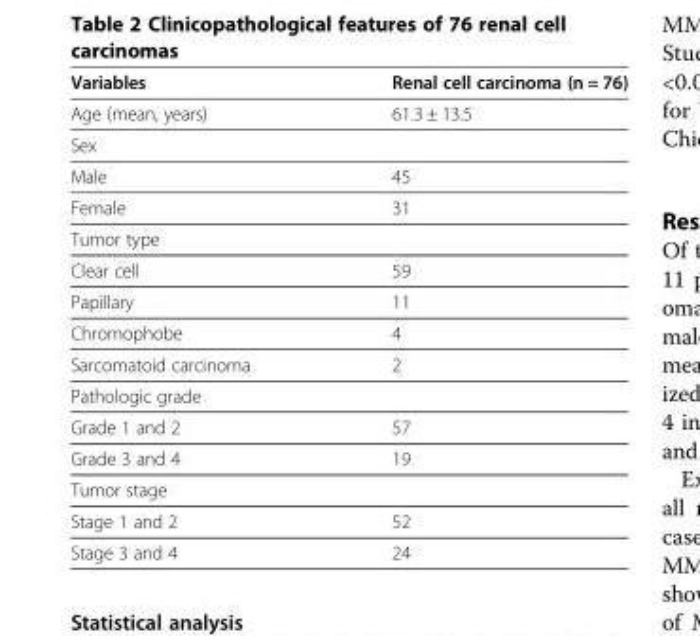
<table><thead><tr><td>Variables</td><td>Renal cell carcinoma (n = 76)</td></tr></thead><tbody><tr><td>Age (mean, years)</td><td>61.3 ± 13.5</td></tr><tr><td colspan="2">Sex</td></tr><tr><td>Male</td><td>45</td></tr><tr><td>Female</td><td>31</td></tr><tr><td colspan="2">Tumor type</td></tr><tr><td>Clear cell</td><td>59</td></tr><tr><td>Papillary</td><td>11</td></tr><tr><td>Chromophobe</td><td>4</td></tr><tr><td>Sarcomatoid carcinoma</td><td>2</td></tr><tr><td colspan="2">Pathologic grade</td></tr><tr><td>Grade 1 and 2</td><td>57</td></tr><tr><td>Grade 3 and 4</td><td>19</td></tr><tr><td colspan="2">Tumor stage</td></tr><tr><td>Stage 1 and 2</td><td>52</td></tr><tr><td>Stage 3 and 4</td><td>24</td></tr></tbody></table>